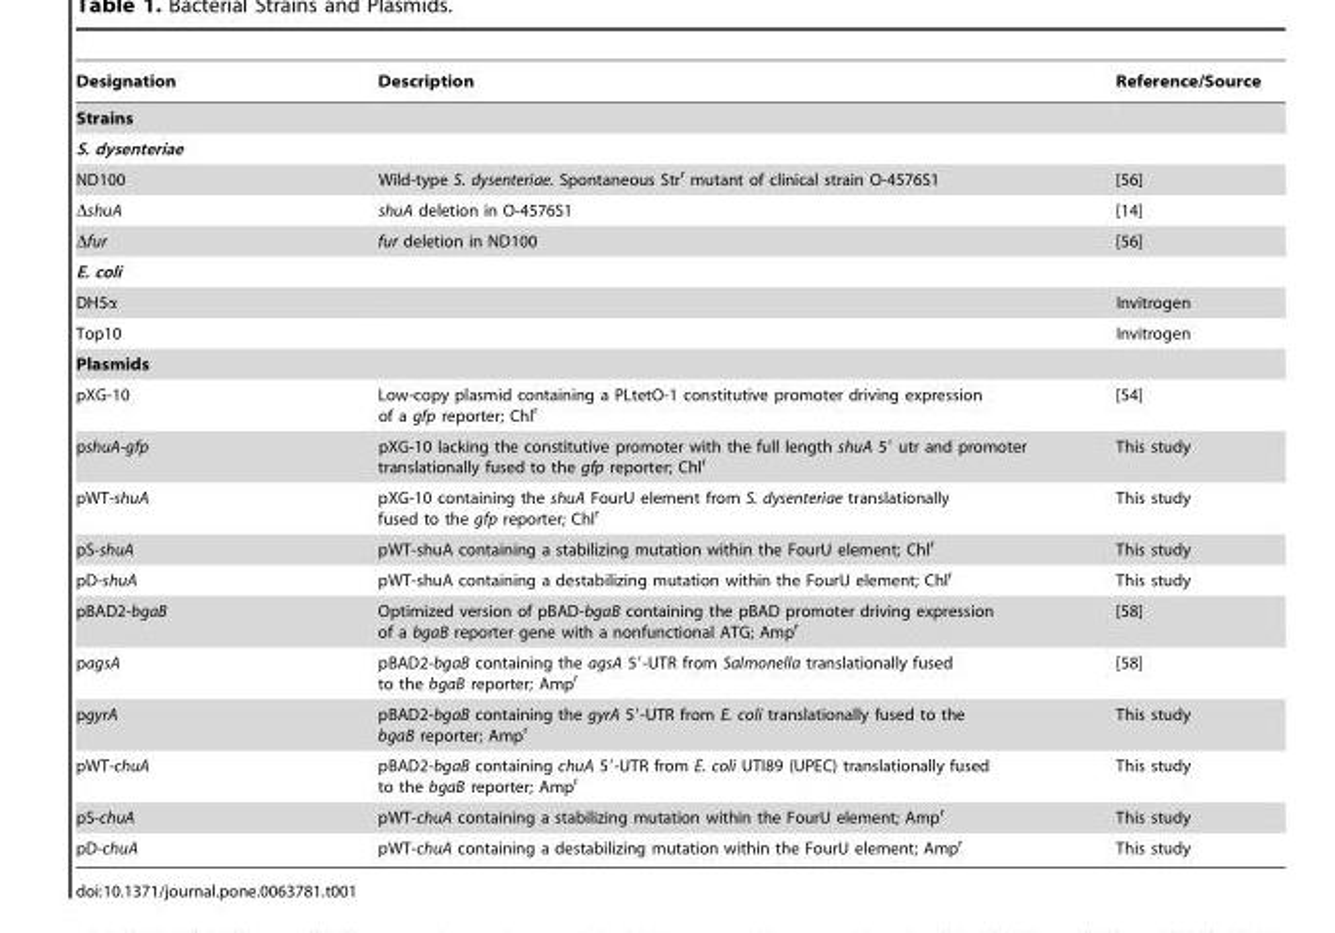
<table><thead><tr><td>Designation</td><td>Description</td><td>Reference/Source</td></tr></thead><tbody><tr><td colspan="3">Strains</td></tr><tr><td colspan="3">S. dysenteriae</td></tr><tr><td>ND100</td><td>Wild-type S. dysenteriae. Spontaneous Str<sup>r</sup> mutant of clinical strain O-4576S1</td><td>[56]</td></tr><tr><td>ΔshuA</td><td>shuA deletion in O-4576S1</td><td>[14]</td></tr><tr><td>Δfur</td><td>fur deletion in ND100</td><td>[56]</td></tr><tr><td colspan="3">E. coli</td></tr><tr><td>DH5α</td><td></td><td>Invitrogen</td></tr><tr><td>Top10</td><td></td><td>Invitrogen</td></tr><tr><td colspan="3">Plasmids</td></tr><tr><td>pXG-10</td><td>Low-copy plasmid containing a PLtetO-1 constitutive promoter driving expression of a gfp reporter; Chl<sup>r</sup></td><td>[54]</td></tr><tr><td>pshuA-gfp</td><td>pXG-10 lacking the constitutive promoter with the full length shuA 5′ utr and promoter translationally fused to the gfp reporter; Chl<sup>r</sup></td><td>This study</td></tr><tr><td>pWT-shuA</td><td>pXG-10 containing the shuA FourU element from S. dysenteriae translationally fused to the gfp reporter; Chl<sup>r</sup></td><td>This study</td></tr><tr><td>pS-shuA</td><td>pWT-shuA containing a stabilizing mutation within the FourU element; Chl<sup>r</sup></td><td>This study</td></tr><tr><td>pD-shuA</td><td>pWT-shuA containing a destabilizing mutation within the FourU element; Chl<sup>r</sup></td><td>This study</td></tr><tr><td>pBAD2-bgaB</td><td>Optimized version of pBAD-bgaB containing the pBAD promoter driving expression of a bgaB reporter gene with a nonfunctional ATG; Amp<sup>r</sup></td><td>[58]</td></tr><tr><td>pagsA</td><td>pBAD2-bgaB containing the agsA 5′-UTR from Salmonella translationally fused to the bgaB reporter; Amp<sup>r</sup></td><td>[58]</td></tr><tr><td>pgyrA</td><td>pBAD2-bgaB containing the gyrA 5′-UTR from E. coli translationally fused to the bgaB reporter; Amp<sup>r</sup></td><td>This study</td></tr><tr><td>pWT-chuA</td><td>pBAD2-bgaB containing chuA 5′-UTR from E. coli UTI89 (UPEC) translationally fused to the bgaB reporter; Amp<sup>r</sup></td><td>This study</td></tr><tr><td>pS-chuA</td><td>pWT-chuA containing a stabilizing mutation within the FourU element; Amp<sup>r</sup></td><td>This study</td></tr><tr><td>pD-chuA</td><td>pWT-chuA containing a destabilizing mutation within the FourU element; Amp<sup>r</sup></td><td>This study</td></tr></tbody></table>